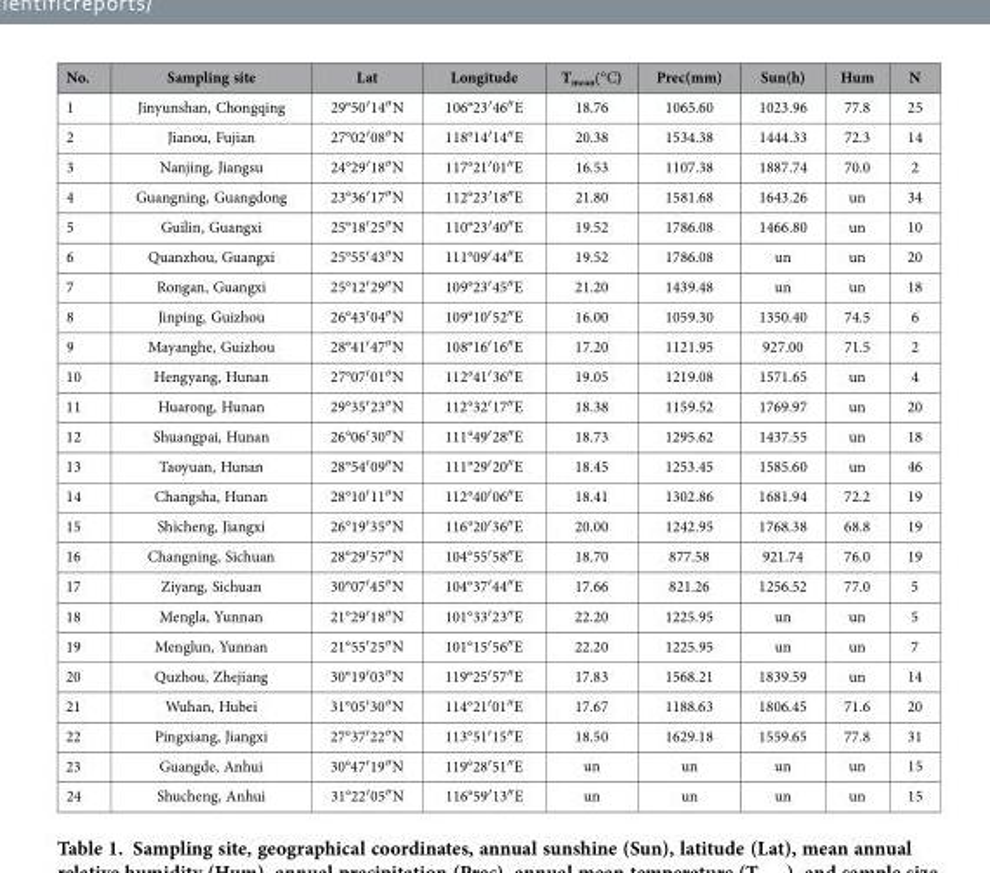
<table><thead><tr><td>No.</td><td>Sampling site</td><td>Lat</td><td>Longitude</td><td>T<sub>mean</sub>(°C)</td><td>Prec(mm)</td><td>Sun(h)</td><td>Hum</td><td>N</td></tr></thead><tbody><tr><td>1</td><td>Jinyunshan, Chongqing</td><td>29°50′ 14″ N</td><td>106°23′ 46″ E</td><td>18.76</td><td>1065.60</td><td>1023.96</td><td>77.8</td><td>25</td></tr><tr><td>2</td><td>Jianou, Fujian</td><td>27°02′ 08″ N</td><td>118°14′ 14″ E</td><td>20.38</td><td>1534.38</td><td>1444.33</td><td>72.3</td><td>14</td></tr><tr><td>3</td><td>Nanjing, Jiangsu</td><td>24°29′ 18″ N</td><td>117°21′ 01″ E</td><td>16.53</td><td>1107.38</td><td>1887.74</td><td>70.0</td><td>2</td></tr><tr><td>4</td><td>Guangning, Guangdong</td><td>23°36′ 17″ N</td><td>112°23′ 18″ E</td><td>21.80</td><td>1581.68</td><td>1643.26</td><td>un</td><td>34</td></tr><tr><td>5</td><td>Guilin, Guangxi</td><td>25°18′ 25″ N</td><td>110°23′ 40″ E</td><td>19.52</td><td>1786.08</td><td>1466.80</td><td>un</td><td>10</td></tr><tr><td>6</td><td>Quanzhou, Guangxi</td><td>25°55′ 43″ N</td><td>111°09′ 44″ E</td><td>19.52</td><td>1786.08</td><td>un</td><td>un</td><td>20</td></tr><tr><td>7</td><td>Rongan, Guangxi</td><td>25°12′ 29″ N</td><td>109°23′ 45″ E</td><td>21.20</td><td>1439.48</td><td>un</td><td>un</td><td>18</td></tr><tr><td>8</td><td>Jinping, Guizhou</td><td>26°43′ 04″ N</td><td>109°10′ 52″ E</td><td>16.00</td><td>1059.30</td><td>1350.40</td><td>74.5</td><td>6</td></tr><tr><td>9</td><td>Mayanghe, Guizhou</td><td>28°41′ 47″ N</td><td>108°16′ 16″ E</td><td>17.20</td><td>1121.95</td><td>927.00</td><td>71.5</td><td>2</td></tr><tr><td>10</td><td>Hengyang, Hunan</td><td>27°07′ 01″ N</td><td>112°41′ 36″ E</td><td>19.05</td><td>1219.08</td><td>1571.65</td><td>un</td><td>4</td></tr><tr><td>11</td><td>Huarong, Hunan</td><td>29°35′ 23″ N</td><td>112°32′ 17″ E</td><td>18.38</td><td>1159.52</td><td>1769.97</td><td>un</td><td>20</td></tr><tr><td>12</td><td>Shuangpai, Hunan</td><td>26°06′ 30″ N</td><td>111°49′ 28″ E</td><td>18.73</td><td>1295.62</td><td>1437.55</td><td>un</td><td>18</td></tr><tr><td>13</td><td>Taoyuan, Hunan</td><td>28°54′ 09″ N</td><td>111°29′ 20″ E</td><td>18.45</td><td>1253.45</td><td>1585.60</td><td>un</td><td>46</td></tr><tr><td>14</td><td>Changsha, Hunan</td><td>28°10′ 11″ N</td><td>112°40′ 06″ E</td><td>18.41</td><td>1302.86</td><td>1681.94</td><td>72.2</td><td>19</td></tr><tr><td>15</td><td>Shicheng, Jiangxi</td><td>26°19′ 35″ N</td><td>116°20′ 36″ E</td><td>20.00</td><td>1242.95</td><td>1768.38</td><td>68.8</td><td>19</td></tr><tr><td>16</td><td>Changning, Sichuan</td><td>28°29′ 57″ N</td><td>104°55′ 58″ E</td><td>18.70</td><td>877.58</td><td>921.74</td><td>76.0</td><td>19</td></tr><tr><td>17</td><td>Ziyang, Sichuan</td><td>30°07′ 45″ N</td><td>104°37′ 44″ E</td><td>17.66</td><td>821.26</td><td>1256.52</td><td>77.0</td><td>5</td></tr><tr><td>18</td><td>Mengla, Yunnan</td><td>21°29′ 18″ N</td><td>101°33′ 23″ E</td><td>22.20</td><td>1225.95</td><td>un</td><td>un</td><td>5</td></tr><tr><td>19</td><td>Menglun, Yunnan</td><td>21°55′ 25″ N</td><td>101°15′ 56″ E</td><td>22.20</td><td>1225.95</td><td>un</td><td>un</td><td>7</td></tr><tr><td>20</td><td>Quzhou, Zhejiang</td><td>30°19′ 03″ N</td><td>119°25′ 57″ E</td><td>17.83</td><td>1568.21</td><td>1839.59</td><td>un</td><td>14</td></tr><tr><td>21</td><td>Wuhan, Hubei</td><td>31°05′ 30″ N</td><td>114°21′ 01″ E</td><td>17.67</td><td>1188.63</td><td>1806.45</td><td>71.6</td><td>20</td></tr><tr><td>22</td><td>Pingxiang, Jiangxi</td><td>27°37′ 22″ N</td><td>113°51′ 15″ E</td><td>18.50</td><td>1629.18</td><td>1559.65</td><td>77.8</td><td>31</td></tr><tr><td>23</td><td>Guangde, Anhui</td><td>30°47′ 19″ N</td><td>119°28′ 51″ E</td><td>un</td><td>un</td><td>un</td><td>un</td><td>15</td></tr><tr><td>24</td><td>Shucheng, Anhui</td><td>31°22′ 05″ N</td><td>116°59′ 13″ E</td><td>un</td><td>un</td><td>un</td><td>un</td><td>15</td></tr></tbody></table>